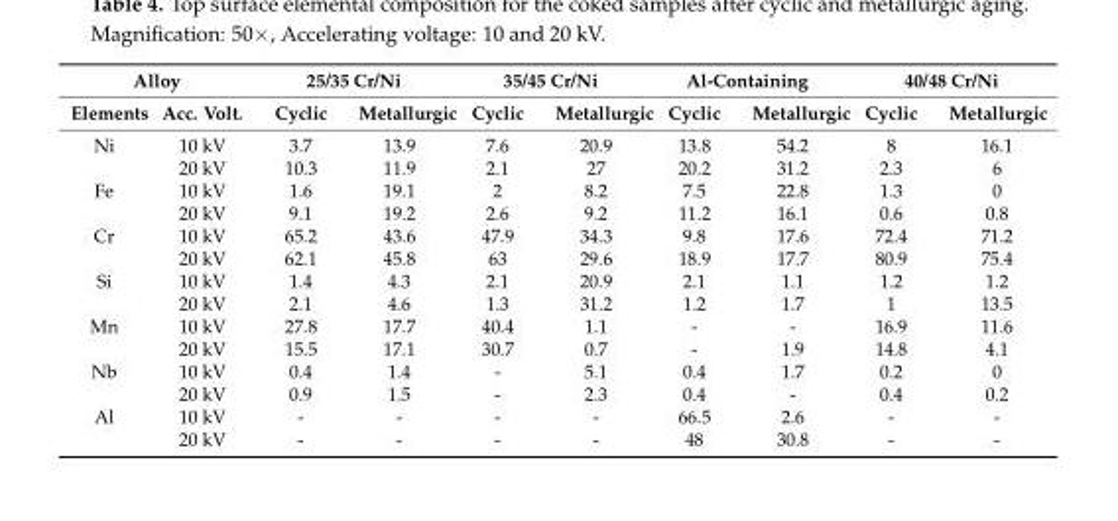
<table><thead><tr><td colspan="2">Alloy</td><td colspan="2">25/35 Cr/Ni</td><td colspan="2">35/45 Cr/Ni</td><td colspan="2">Al-Containing</td><td colspan="2">40/48 Cr/Ni</td></tr><tr><td>Elements</td><td>Acc. Volt.</td><td>Cyclic</td><td>Metallurgic</td><td>Cyclic</td><td>Metallurgic</td><td>Cyclic</td><td>Metallurgic</td><td>Cyclic</td><td>Metallurgic</td></tr></thead><tbody><tr><td rowspan="2">Ni</td><td>10 kV</td><td>3.7</td><td>13.9</td><td>7.6</td><td>20.9</td><td>13.8</td><td>54.2</td><td>8</td><td>16.1</td></tr><tr><td>20 kV</td><td>10.3</td><td>11.9</td><td>2.1</td><td>27</td><td>20.2</td><td>31.2</td><td>2.3</td><td>6</td></tr><tr><td rowspan="2">Fe</td><td>10 kV</td><td>1.6</td><td>19.1</td><td>2</td><td>8.2</td><td>7.5</td><td>22.8</td><td>1.3</td><td>0</td></tr><tr><td>20 kV</td><td>9.1</td><td>19.2</td><td>2.6</td><td>9.2</td><td>11.2</td><td>16.1</td><td>0.6</td><td>0.8</td></tr><tr><td rowspan="2">Cr</td><td>10 kV</td><td>65.2</td><td>43.6</td><td>47.9</td><td>34.3</td><td>9.8</td><td>17.6</td><td>72.4</td><td>71.2</td></tr><tr><td>20 kV</td><td>62.1</td><td>45.8</td><td>63</td><td>29.6</td><td>18.9</td><td>17.7</td><td>80.9</td><td>75.4</td></tr><tr><td rowspan="2">Si</td><td>10 kV</td><td>1.4</td><td>4.3</td><td>2.1</td><td>20.9</td><td>2.1</td><td>1.1</td><td>1.2</td><td>1.2</td></tr><tr><td>20 kV</td><td>2.1</td><td>4.6</td><td>1.3</td><td>31.2</td><td>1.2</td><td>1.7</td><td>1</td><td>13.5</td></tr><tr><td rowspan="2">Mn</td><td>10 kV</td><td>27.8</td><td>17.7</td><td>40.4</td><td>1.1</td><td>-</td><td>-</td><td>16.9</td><td>11.6</td></tr><tr><td>20 kV</td><td>15.5</td><td>17.1</td><td>30.7</td><td>0.7</td><td>-</td><td>1.9</td><td>14.8</td><td>4.1</td></tr><tr><td rowspan="2">Nb</td><td>10 kV</td><td>0.4</td><td>1.4</td><td>-</td><td>5.1</td><td>0.4</td><td>1.7</td><td>0.2</td><td>0</td></tr><tr><td>20 kV</td><td>0.9</td><td>1.5</td><td>-</td><td>2.3</td><td>0.4</td><td>-</td><td>0.4</td><td>0.2</td></tr><tr><td rowspan="2">Al</td><td>10 kV</td><td>-</td><td>-</td><td>-</td><td>-</td><td>66.5</td><td>2.6</td><td>-</td><td>-</td></tr><tr><td>20 kV</td><td>-</td><td>-</td><td>-</td><td>-</td><td>48</td><td>30.8</td><td>-</td><td>-</td></tr></tbody></table>